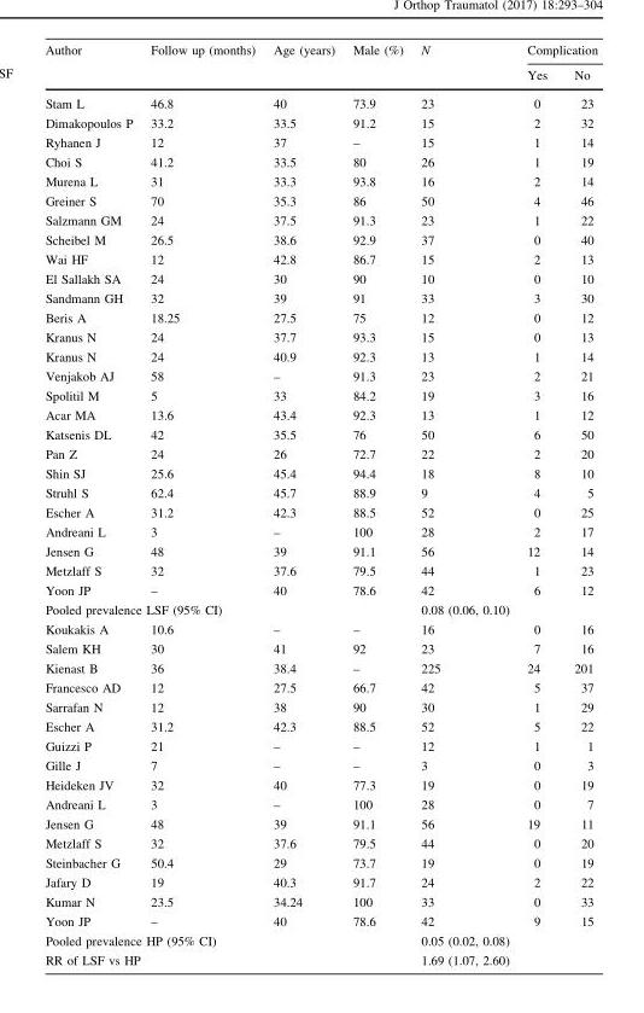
<table><thead><tr><td rowspan="2">Author</td><td rowspan="2">Follow up (months)</td><td rowspan="2">Age (years)</td><td rowspan="2">Male (%)</td><td rowspan="2">N</td><td colspan="2">Complication</td></tr><tr><td>Yes</td><td>No</td></tr></thead><tbody><tr><td>Stam L</td><td>46.8</td><td>40</td><td>73.9</td><td>23</td><td>0</td><td>23</td></tr><tr><td>Dimakopoulos P</td><td>33.2</td><td>33.5</td><td>91.2</td><td>15</td><td>2</td><td>32</td></tr><tr><td>Ryhanen J</td><td>12</td><td>37</td><td>–</td><td>15</td><td>1</td><td>14</td></tr><tr><td>Choi S</td><td>41.2</td><td>33.5</td><td>80</td><td>26</td><td>1</td><td>19</td></tr><tr><td>Murena L</td><td>31</td><td>33.3</td><td>93.8</td><td>16</td><td>2</td><td>14</td></tr><tr><td>Greiner S</td><td>70</td><td>35.3</td><td>86</td><td>50</td><td>4</td><td>46</td></tr><tr><td>Salzmann GM</td><td>24</td><td>37.5</td><td>91.3</td><td>23</td><td>1</td><td>22</td></tr><tr><td>Scheibel M</td><td>26.5</td><td>38.6</td><td>92.9</td><td>37</td><td>0</td><td>40</td></tr><tr><td>Wai HF</td><td>12</td><td>42.8</td><td>86.7</td><td>15</td><td>2</td><td>13</td></tr><tr><td>El Sallakh SA</td><td>24</td><td>30</td><td>90</td><td>10</td><td>0</td><td>10</td></tr><tr><td>Sandmann GH</td><td>32</td><td>39</td><td>91</td><td>33</td><td>3</td><td>30</td></tr><tr><td>Beris A</td><td>18.25</td><td>27.5</td><td>75</td><td>12</td><td>0</td><td>12</td></tr><tr><td>Kranus N</td><td>24</td><td>37.7</td><td>93.3</td><td>15</td><td>0</td><td>13</td></tr><tr><td>Kranus N</td><td>24</td><td>40.9</td><td>92.3</td><td>13</td><td>1</td><td>14</td></tr><tr><td>Venjakob AJ</td><td>58</td><td>–</td><td>91.3</td><td>23</td><td>2</td><td>21</td></tr><tr><td>Spolitil M</td><td>5</td><td>33</td><td>84.2</td><td>19</td><td>3</td><td>16</td></tr><tr><td>Acar MA</td><td>13.6</td><td>43.4</td><td>92.3</td><td>13</td><td>1</td><td>12</td></tr><tr><td>Katsenis DL</td><td>42</td><td>35.5</td><td>76</td><td>50</td><td>6</td><td>50</td></tr><tr><td>Pan Z</td><td>24</td><td>26</td><td>72.7</td><td>22</td><td>2</td><td>20</td></tr><tr><td>Shin SJ</td><td>25.6</td><td>45.4</td><td>94.4</td><td>18</td><td>8</td><td>10</td></tr><tr><td>Struhl S</td><td>62.4</td><td>45.7</td><td>88.9</td><td>9</td><td>4</td><td>5</td></tr><tr><td>Escher A</td><td>31.2</td><td>42.3</td><td>88.5</td><td>52</td><td>0</td><td>25</td></tr><tr><td>Andreani L</td><td>3</td><td>–</td><td>100</td><td>28</td><td>2</td><td>17</td></tr><tr><td>Jensen G</td><td>48</td><td>39</td><td>91.1</td><td>56</td><td>12</td><td>14</td></tr><tr><td>Metzlaff S</td><td>32</td><td>37.6</td><td>79.5</td><td>44</td><td>1</td><td>23</td></tr><tr><td>Yoon JP</td><td>–</td><td>40</td><td>78.6</td><td>42</td><td>6</td><td>12</td></tr><tr><td colspan="4">Pooled prevalence LSF (95% CI)</td><td>0.08 (0.06, 0.10)</td><td></td><td></td></tr><tr><td>Koukakis A</td><td>10.6</td><td>–</td><td>–</td><td>16</td><td>0</td><td>16</td></tr><tr><td>Salem KH</td><td>30</td><td>41</td><td>92</td><td>23</td><td>7</td><td>16</td></tr><tr><td>Kienast B</td><td>36</td><td>38.4</td><td>–</td><td>225</td><td>24</td><td>201</td></tr><tr><td>Francesco AD</td><td>12</td><td>27.5</td><td>66.7</td><td>42</td><td>5</td><td>37</td></tr><tr><td>Sarrafan N</td><td>12</td><td>38</td><td>90</td><td>30</td><td>1</td><td>29</td></tr><tr><td>Escher A</td><td>31.2</td><td>42.3</td><td>88.5</td><td>52</td><td>5</td><td>22</td></tr><tr><td>Guizzi P</td><td>21</td><td>–</td><td>–</td><td>12</td><td>1</td><td>1</td></tr><tr><td>Gille J</td><td>7</td><td>–</td><td>–</td><td>3</td><td>0</td><td>3</td></tr><tr><td>Heideken JV</td><td>32</td><td>40</td><td>77.3</td><td>19</td><td>0</td><td>19</td></tr><tr><td>Andreani L</td><td>3</td><td>–</td><td>100</td><td>28</td><td>0</td><td>7</td></tr><tr><td>Jensen G</td><td>48</td><td>39</td><td>91.1</td><td>56</td><td>19</td><td>11</td></tr><tr><td>Metzlaff S</td><td>32</td><td>37.6</td><td>79.5</td><td>44</td><td>0</td><td>20</td></tr><tr><td>Steinbacher G</td><td>50.4</td><td>29</td><td>73.7</td><td>19</td><td>0</td><td>19</td></tr><tr><td>Jafary D</td><td>19</td><td>40.3</td><td>91.7</td><td>24</td><td>2</td><td>22</td></tr><tr><td>Kumar N</td><td>23.5</td><td>34.24</td><td>100</td><td>33</td><td>0</td><td>33</td></tr><tr><td>Yoon JP</td><td>–</td><td>40</td><td>78.6</td><td>42</td><td>9</td><td>15</td></tr><tr><td colspan="4">Pooled prevalence HP (95% CI)</td><td>0.05 (0.02, 0.08)</td><td></td><td></td></tr><tr><td colspan="4">RR of LSF vs HP</td><td>1.69 (1.07, 2.60)</td><td></td><td></td></tr></tbody></table>